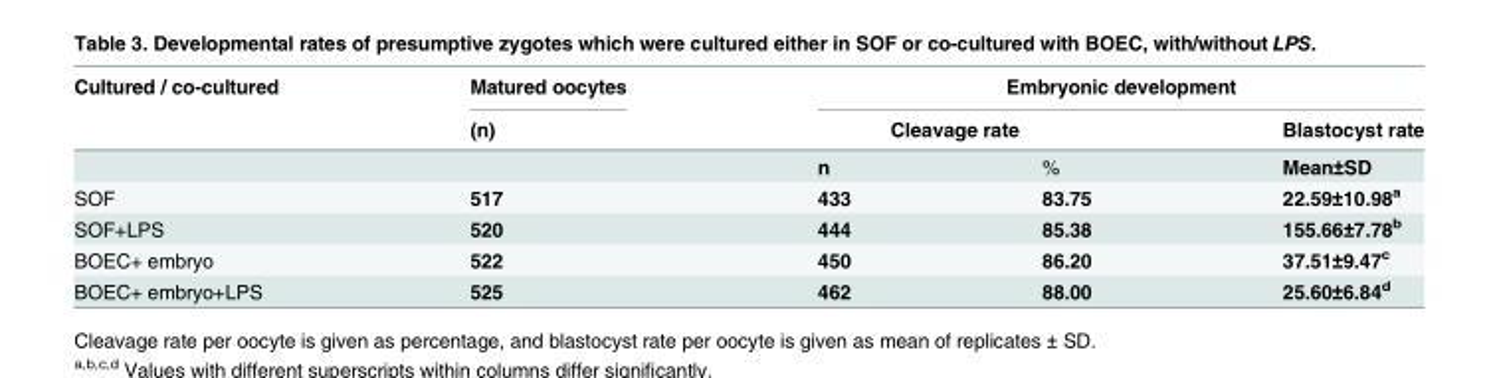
<table><thead><tr><td rowspan="3">Cultured / co-cultured</td><td rowspan="3">Matured oocytes (n)</td><td colspan="3">Embryonic development</td></tr><tr><td colspan="2">Cleavage rate</td><td rowspan="2">Blastocyst rate Mean±SD</td></tr><tr><td>n</td><td>%</td></tr></thead><tbody><tr><td>SOF</td><td>517</td><td>433</td><td>83.75</td><td>22.59±10.98<sup>a</sup></td></tr><tr><td>SOF+LPS</td><td>520</td><td>444</td><td>85.38</td><td>155.66±7.78<sup>b</sup></td></tr><tr><td>BOEC+ embryo</td><td>522</td><td>450</td><td>86.20</td><td>37.51±9.47<sup>c</sup></td></tr><tr><td>BOEC+ embryo+LPS</td><td>525</td><td>462</td><td>88.00</td><td>25.60±6.84<sup>d</sup></td></tr></tbody></table>